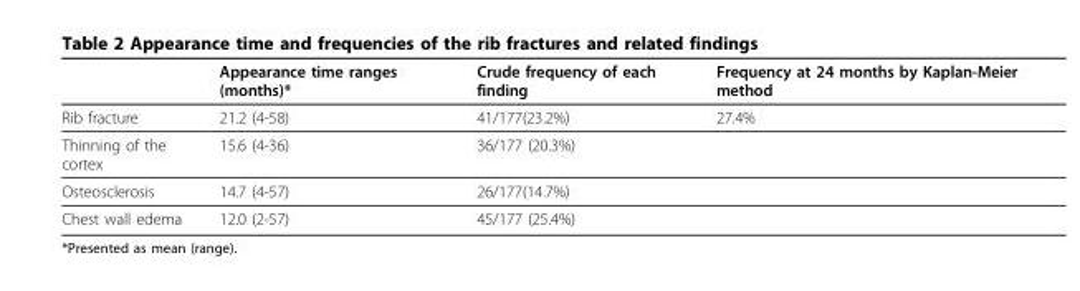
<table><thead><tr><td></td><td>Appearance time ranges (months)*</td><td>Crude frequency of each finding</td><td>Frequency at 24 months by Kaplan-Meier method</td></tr></thead><tbody><tr><td>Rib fracture</td><td>21.2 (4-58)</td><td>41/177(23.2%)</td><td>27.4%</td></tr><tr><td>Thinning of the cortex</td><td>15.6 (4-36)</td><td>36/177 (20.3%)</td><td></td></tr><tr><td>Osteosclerosis</td><td>14.7 (4-57)</td><td>26/177(14.7%)</td><td></td></tr><tr><td>Chest wall edema</td><td>12.0 (2-57)</td><td>45/177 (25.4%)</td><td></td></tr></tbody></table>